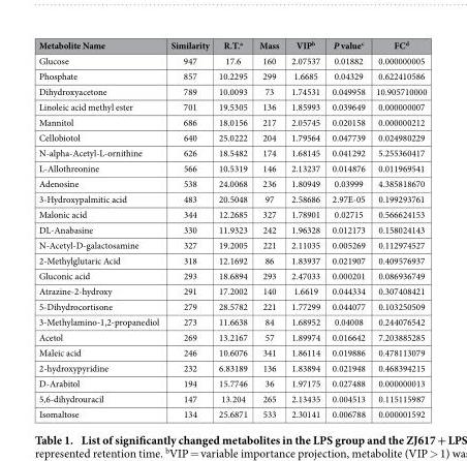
<table><thead><tr><td>Metabolite Name</td><td>Similarity</td><td>R.T.<sup>a</sup></td><td>Mass</td><td>VIP<sup>b</sup></td><td>P value<sup>c</sup></td><td>FC<sup>d</sup></td></tr></thead><tbody><tr><td>Glucose</td><td>947</td><td>17.6</td><td>160</td><td>2.07537</td><td>0.01882</td><td>0.000000005</td></tr><tr><td>Phosphate</td><td>857</td><td>10.2295</td><td>299</td><td>1.6685</td><td>0.04329</td><td>0.622410586</td></tr><tr><td>Dihydroxyacetone</td><td>789</td><td>10.0093</td><td>73</td><td>1.74531</td><td>0.049958</td><td>10.905710000</td></tr><tr><td>Linoleic acid methyl ester</td><td>701</td><td>19.5305</td><td>136</td><td>1.85993</td><td>0.039649</td><td>0.000000007</td></tr><tr><td>Mannitol</td><td>686</td><td>18.0156</td><td>217</td><td>2.05745</td><td>0.020158</td><td>0.000000212</td></tr><tr><td>Cellobiotol</td><td>640</td><td>25.0222</td><td>204</td><td>1.79564</td><td>0.047739</td><td>0.024980229</td></tr><tr><td>N-alpha-Acetyl-L-ornithine</td><td>626</td><td>18.5482</td><td>174</td><td>1.68145</td><td>0.041292</td><td>5.255360417</td></tr><tr><td>L-Allothreonine</td><td>566</td><td>10.5319</td><td>146</td><td>2.13237</td><td>0.014876</td><td>0.011969541</td></tr><tr><td>Adenosine</td><td>538</td><td>24.0068</td><td>236</td><td>1.80949</td><td>0.03999</td><td>4.385818670</td></tr><tr><td>3-Hydroxypalmitic acid</td><td>483</td><td>20.5048</td><td>97</td><td>2.58686</td><td>2.97E-05</td><td>0.199293761</td></tr><tr><td>Malonic acid</td><td>344</td><td>12.2685</td><td>327</td><td>1.78901</td><td>0.02715</td><td>0.566624153</td></tr><tr><td>DL-Anabasine</td><td>330</td><td>11.9323</td><td>242</td><td>1.96328</td><td>0.012173</td><td>0.158024143</td></tr><tr><td>N-Acetyl-D-galactosamine</td><td>327</td><td>19.2005</td><td>221</td><td>2.11035</td><td>0.005269</td><td>0.112974527</td></tr><tr><td>2-Methylglutaric Acid</td><td>318</td><td>12.1692</td><td>86</td><td>1.83937</td><td>0.021907</td><td>0.409576937</td></tr><tr><td>Gluconic acid</td><td>293</td><td>18.6894</td><td>293</td><td>2.47033</td><td>0.000201</td><td>0.086936749</td></tr><tr><td>Atrazine-2-hydroxy</td><td>291</td><td>17.2002</td><td>140</td><td>1.6619</td><td>0.044334</td><td>0.307408421</td></tr><tr><td>5-Dihydrocortisone</td><td>279</td><td>28.5782</td><td>221</td><td>1.77299</td><td>0.044077</td><td>0.103250509</td></tr><tr><td>3-Methylamino-1,2-propanediol</td><td>273</td><td>11.6638</td><td>84</td><td>1.68952</td><td>0.04008</td><td>0.244076542</td></tr><tr><td>Acetol</td><td>269</td><td>13.2167</td><td>57</td><td>1.89974</td><td>0.016642</td><td>7.203885285</td></tr><tr><td>Maleic acid</td><td>246</td><td>10.6076</td><td>341</td><td>1.86114</td><td>0.019886</td><td>0.478113079</td></tr><tr><td>2-hydroxypyridine</td><td>232</td><td>6.83189</td><td>136</td><td>1.83894</td><td>0.021948</td><td>0.468394215</td></tr><tr><td>D-Arabitol</td><td>194</td><td>15.7746</td><td>36</td><td>1.97175</td><td>0.027488</td><td>0.000000013</td></tr><tr><td>5,6-dihydrouracil</td><td>147</td><td>13.204</td><td>265</td><td>2.13435</td><td>0.004513</td><td>0.115115987</td></tr><tr><td>Isomaltose</td><td>134</td><td>25.6871</td><td>533</td><td>2.30141</td><td>0.006788</td><td>0.000001592</td></tr></tbody></table>